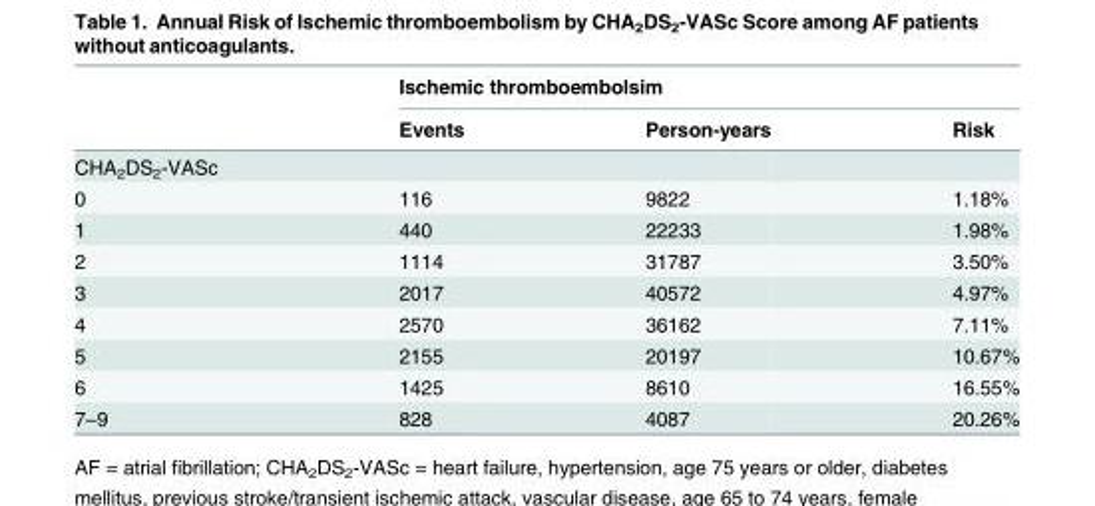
<table><thead><tr><td rowspan="2"></td><td colspan="3">Ischemic thromboembolsim</td></tr><tr><td>Events</td><td>Person-years</td><td>Risk</td></tr></thead><tbody><tr><td colspan="4">CHA<sub>2</sub>DS<sub>2</sub>-VASc</td></tr><tr><td>0</td><td>116</td><td>9822</td><td>1.18%</td></tr><tr><td>1</td><td>440</td><td>22233</td><td>1.98%</td></tr><tr><td>2</td><td>1114</td><td>31787</td><td>3.50%</td></tr><tr><td>3</td><td>2017</td><td>40572</td><td>4.97%</td></tr><tr><td>4</td><td>2570</td><td>36162</td><td>7.11%</td></tr><tr><td>5</td><td>2155</td><td>20197</td><td>10.67%</td></tr><tr><td>6</td><td>1425</td><td>8610</td><td>16.55%</td></tr><tr><td>7–9</td><td>828</td><td>4087</td><td>20.26%</td></tr></tbody></table>